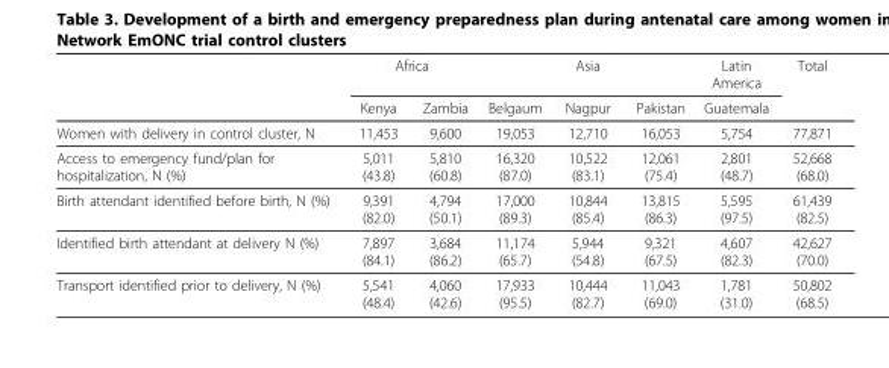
<table><thead><tr><td rowspan="2"></td><td colspan="2">Africa</td><td colspan="3">Asia</td><td rowspan="2">Latin America Guatemala</td><td rowspan="2">Total</td></tr><tr><td>Kenya</td><td>Zambia</td><td>Belgaum</td><td>Nagpur</td><td>Pakistan</td></tr></thead><tbody><tr><td>Women with delivery in control cluster, N</td><td>11,453</td><td>9,600</td><td>19,053</td><td>12,710</td><td>16,053</td><td>5,754</td><td>77,871</td></tr><tr><td>Access to emergency fund/plan for hospitalization, N (%)</td><td>5,011 (43.8)</td><td>5,810 (60.8)</td><td>16,320 (87.0)</td><td>10,522 (83.1)</td><td>12,061 (75.4)</td><td>2,801 (48.7)</td><td>52,668 (68.0)</td></tr><tr><td>Birth attendant identified before birth, N (%)</td><td>9,391 (82.0)</td><td>4,794 (50.1)</td><td>17,000 (89.3)</td><td>10,844 (85.4)</td><td>13,815 (86.3)</td><td>5,595 (97.5)</td><td>61,439 (82.5)</td></tr><tr><td>Identified birth attendant at delivery N (%)</td><td>7,897 (84.1)</td><td>3,684 (86.2)</td><td>11,174 (65.7)</td><td>5,944 (54.8)</td><td>9,321 (67.5)</td><td>4,607 (82.3)</td><td>42,627 (70.0)</td></tr><tr><td>Transport identified prior to delivery, N (%)</td><td>5,541 (48.4)</td><td>4,060 (42.6)</td><td>17,933 (95.5)</td><td>10,444 (82.7)</td><td>11,043 (69.0)</td><td>1,781 (31.0)</td><td>50,802 (68.5)</td></tr></tbody></table>